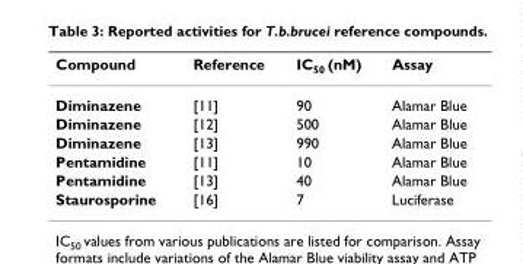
<table><thead><tr><td>Compound</td><td>Reference</td><td>IC<sub>50</sub> (nM)</td><td>Assay</td></tr></thead><tbody><tr><td>Diminazene</td><td>[11]</td><td>90</td><td>Alamar Blue</td></tr><tr><td>Diminazene</td><td>[12]</td><td>500</td><td>Alamar Blue</td></tr><tr><td>Diminazene</td><td>[13]</td><td>990</td><td>Alamar Blue</td></tr><tr><td>Pentamidine</td><td>[11]</td><td>10</td><td>Alamar Blue</td></tr><tr><td>Pentamidine</td><td>[13]</td><td>40</td><td>Alamar Blue</td></tr><tr><td>Staurosporine</td><td>[16]</td><td>7</td><td>Luciferase</td></tr></tbody></table>